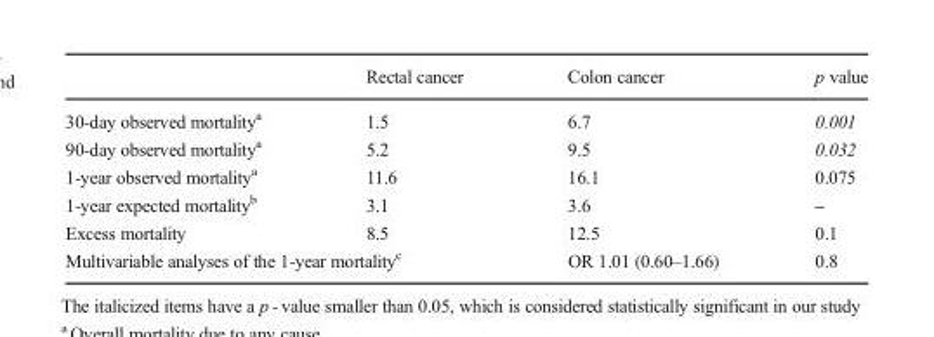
<table><thead><tr><td></td><td>Rectal cancer</td><td>Colon cancer</td><td>p value</td></tr></thead><tbody><tr><td>30-day observed mortality<sup>a</sup></td><td>1.5</td><td>6.7</td><td>0.001</td></tr><tr><td>90-day observed mortality<sup>a</sup></td><td>5.2</td><td>9.5</td><td>0.032</td></tr><tr><td>1-year observed mortality<sup>a</sup></td><td>11.6</td><td>16.1</td><td>0.075</td></tr><tr><td>1-year expected mortality<sup>b</sup></td><td>3.1</td><td>3.6</td><td>–</td></tr><tr><td>Excess mortality</td><td>8.5</td><td>12.5</td><td>0.1</td></tr><tr><td colspan="2">Multivariable analyses of the 1-year mortality<sup>c</sup></td><td>OR 1.01 (0.60–1.66)</td><td>0.8</td></tr></tbody></table>